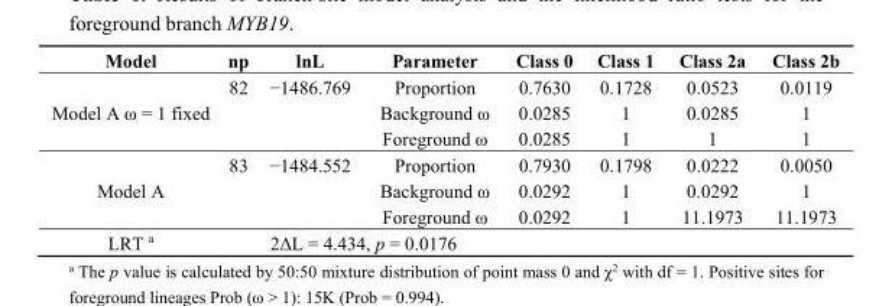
<table><thead><tr><td>Model</td><td>np</td><td>lnL</td><td>Parameter</td><td>Class 0</td><td>Class 1</td><td>Class 2a</td><td>Class 2b</td></tr></thead><tbody><tr><td rowspan="3">Model A ω = 1 fixed</td><td>82</td><td>−1486.769</td><td>Proportion</td><td>0.7630</td><td>0.1728</td><td>0.0523</td><td>0.0119</td></tr><tr><td></td><td></td><td>Background ω</td><td>0.0285</td><td>1</td><td>0.0285</td><td>1</td></tr><tr><td></td><td></td><td>Foreground ω</td><td>0.0285</td><td>1</td><td>1</td><td>1</td></tr><tr><td rowspan="3">Model A</td><td>83</td><td>−1484.552</td><td>Proportion</td><td>0.7930</td><td>0.1798</td><td>0.0222</td><td>0.0050</td></tr><tr><td></td><td></td><td>Background ω</td><td>0.0292</td><td>1</td><td>0.0292</td><td>1</td></tr><tr><td></td><td></td><td>Foreground ω</td><td>0.0292</td><td>1</td><td>11.1973</td><td>11.1973</td></tr><tr><td>LRT <sup>a</sup></td><td colspan="3">2ΔL = 4.434, p = 0.0176</td><td></td><td></td><td></td><td></td></tr></tbody></table>